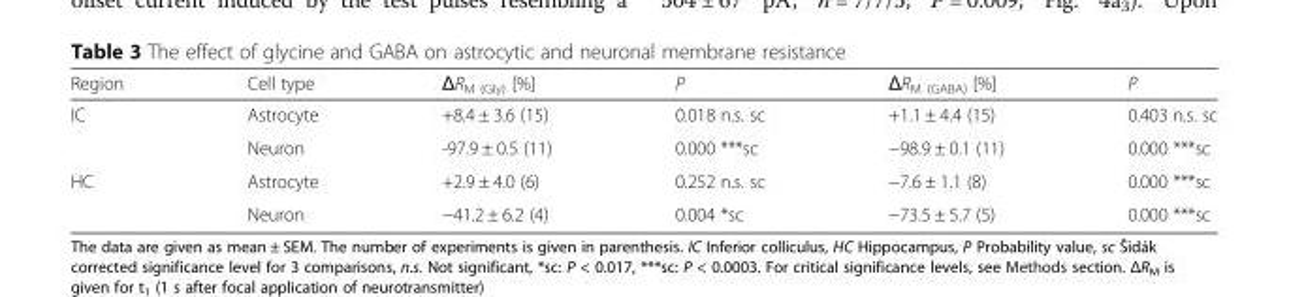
<table><thead><tr><td>Region</td><td>Cell type</td><td>ΔR<sub>M (Gly)</sub> [%]</td><td>P</td><td>ΔR<sub>M (GABA)</sub> [%]</td><td>P</td></tr></thead><tbody><tr><td rowspan="2">IC</td><td>Astrocyte</td><td>+8.4 ± 3.6 (15)</td><td>0.018 n.s. sc</td><td>+1.1 ± 4.4 (15)</td><td>0.403 n.s. sc</td></tr><tr><td>Neuron</td><td>-97.9 ± 0.5 (11)</td><td>0.000 ***sc</td><td>−98.9 ± 0.1 (11)</td><td>0.000 ***sc</td></tr><tr><td rowspan="2">HC</td><td>Astrocyte</td><td>+2.9 ± 4.0 (6)</td><td>0.252 n.s. sc</td><td>−7.6 ± 1.1 (8)</td><td>0.000 ***sc</td></tr><tr><td>Neuron</td><td>−41.2 ± 6.2 (4)</td><td>0.004 *sc</td><td>−73.5 ± 5.7 (5)</td><td>0.000 ***sc</td></tr></tbody></table>